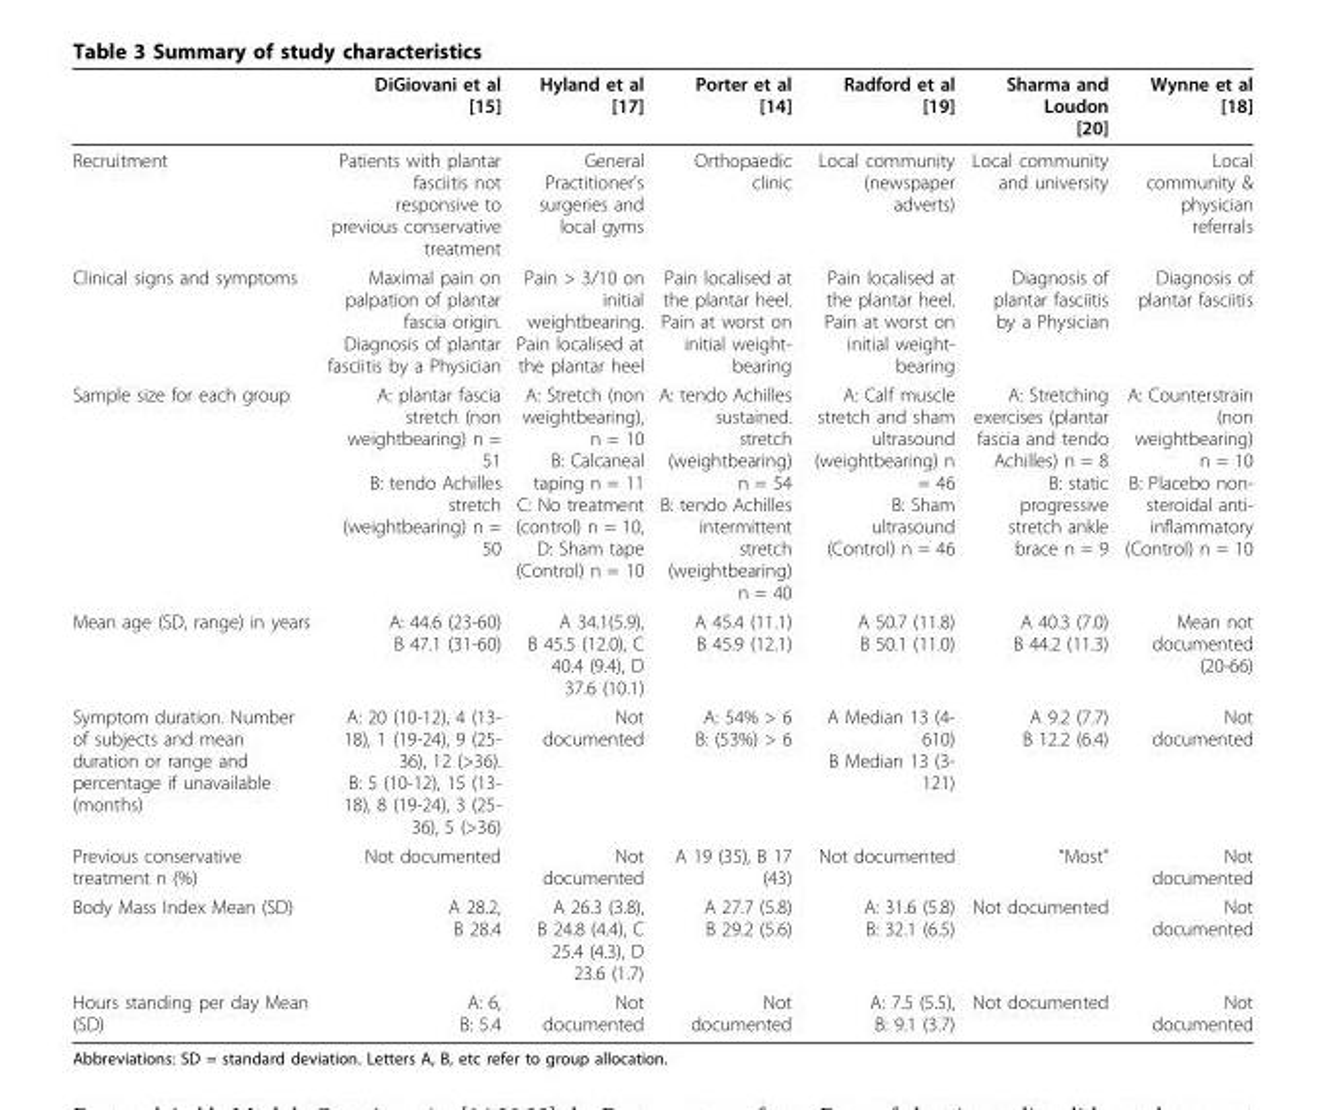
<table><thead><tr><td></td><td>DiGiovani et al [15]</td><td>Hyland et al [17]</td><td>Porter et al [14]</td><td>Radford et al [19]</td><td>Sharma and Loudon [20]</td><td>Wynne et al [18]</td></tr></thead><tbody><tr><td>Recruitment</td><td>Patients with plantar fasciitis not responsive to previous conservative treatment</td><td>General Practitioner’s surgeries and local gyms</td><td>Orthopaedic clinic</td><td>Local community (newspaper adverts)</td><td>Local community and university</td><td>Local community &amp; physician referrals</td></tr><tr><td>Clinical signs and symptoms</td><td>Maximal pain on palpation of plantar fascia origin. Diagnosis of plantar fasciitis by a Physician</td><td>Pain &gt; 3/10 on initial weightbearing. Pain localised at the plantar heel</td><td>Pain localised at the plantar heel. Pain at worst on initial weight- bearing</td><td>Pain localised at the plantar heel. Pain at worst on initial weight- bearing</td><td>Diagnosis of plantar fasciitis by a Physician</td><td>Diagnosis of plantar fasciitis</td></tr><tr><td>Sample size for each group</td><td>A: plantar fascia stretch (non weightbearing) n = 51 B: tendo Achilles stretch (weightbearing) n = 50</td><td>A: Stretch (non weightbearing), n = 10 B: Calcaneal taping n = 11 C: No treatment (control) n = 10, D: Sham tape (Control) n = 10</td><td>A: tendo Achilles sustained. stretch (weightbearing) n = 54 B: tendo Achilles intermittent stretch (weightbearing) n = 40</td><td>A: Calf muscle stretch and sham ultrasound (weightbearing) n = 46 B: Sham ultrasound (Control) n = 46</td><td>A: Stretching exercises (plantar fascia and tendo Achilles) n = 8 B: static progressive stretch ankle brace n = 9</td><td>A: Counterstrain (non weightbearing) n = 10 B: Placebo non- steroidal anti- inflammatory (Control) n = 10</td></tr><tr><td>Mean age (SD, range) in years</td><td>A: 44.6 (23-60) B 47.1 (31-60)</td><td>A 34.1(5.9), B 45.5 (12.0), C 40.4 (9.4), D 37.6 (10.1)</td><td>A 45.4 (11.1) B 45.9 (12.1)</td><td>A 50.7 (11.8) B 50.1 (11.0)</td><td>A 40.3 (7.0) B 44.2 (11.3)</td><td>Mean not documented (20-66)</td></tr><tr><td>Symptom duration. Number of subjects and mean duration or range and percentage if unavailable (months)</td><td>A: 20 (10-12), 4 (13- 18), 1 (19-24), 9 (25- 36), 12 (&gt;36). B: 5 (10-12), 15 (13- 18), 8 (19-24), 3 (25- 36), 5 (&gt;36)</td><td>Not documented</td><td>A: 54% &gt; 6 B: (53%) &gt; 6</td><td>A Median 13 (4- 610) B Median 13 (3- 121)</td><td>A 9.2 (7.7) B 12.2 (6.4)</td><td>Not documented</td></tr><tr><td>Previous conservative treatment n (%)</td><td>Not documented</td><td>Not documented</td><td>A 19 (35), B 17 (43)</td><td>Not documented</td><td>“Most”</td><td>Not documented</td></tr><tr><td>Body Mass Index Mean (SD)</td><td>A 28.2, B 28.4</td><td>A 26.3 (3.8), B 24.8 (4.4), C 25.4 (4.3), D 23.6 (1.7)</td><td>A 27.7 (5.8) B 29.2 (5.6)</td><td>A: 31.6 (5.8) B: 32.1 (6.5)</td><td>Not documented</td><td>Not documented</td></tr><tr><td>Hours standing per day Mean (SD)</td><td>A: 6, B: 5.4</td><td>Not documented</td><td>Not documented</td><td>A: 7.5 (5.5), B: 9.1 (3.7)</td><td>Not documented</td><td>Not documented</td></tr></tbody></table>